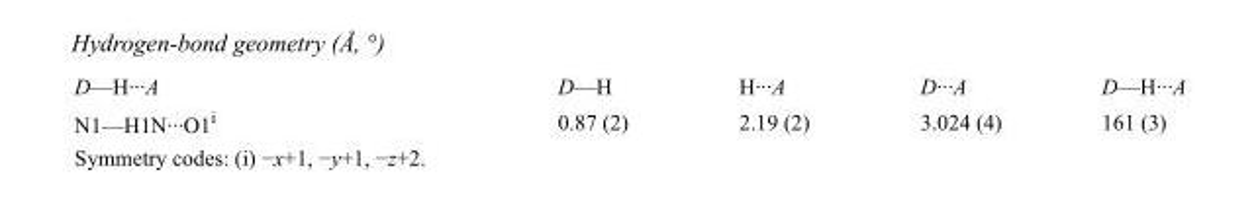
<table><tbody><tr><td>D—H···A</td><td>D—H</td><td>H···A</td><td>D···A</td><td>D—H···A</td></tr><tr><td>N1—H1N···O1<sup>i</sup></td><td>0.87 (2)</td><td>2.19 (2)</td><td>3.024 (4)</td><td>161 (3)</td></tr></tbody></table>